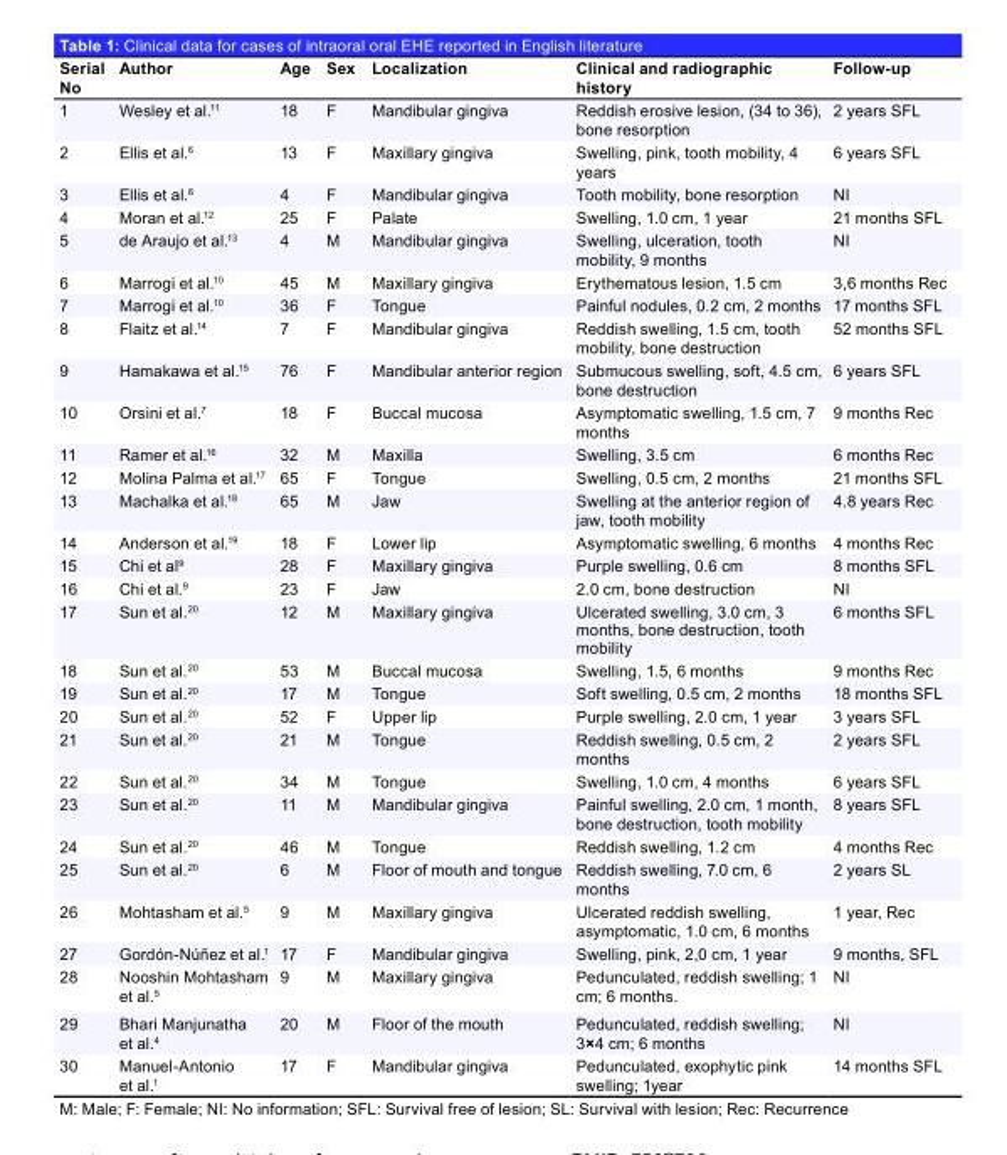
<table><thead><tr><td>Serial No</td><td>Author</td><td>Age</td><td>Sex</td><td>Localization</td><td>Clinical and radiographic history</td><td>Follow-up</td></tr></thead><tbody><tr><td>1</td><td>Wesley et al.<sup>11</sup></td><td>18</td><td>F</td><td>Mandibular gingiva</td><td>Reddish erosive lesion, (34 to 36), bone resorption</td><td>2 years SFL</td></tr><tr><td>2</td><td>Ellis et al.<sup>6</sup></td><td>13</td><td>F</td><td>Maxillary gingiva</td><td>Swelling, pink, tooth mobility, 4 years</td><td>6 years SFL</td></tr><tr><td>3</td><td>Ellis et al.<sup>6</sup></td><td>4</td><td>F</td><td>Mandibular gingiva</td><td>Tooth mobility, bone resorption</td><td>NI</td></tr><tr><td>4</td><td>Moran et al.<sup>12</sup></td><td>25</td><td>F</td><td>Palate</td><td>Swelling, 1.0 cm, 1 year</td><td>21 months SFL</td></tr><tr><td>5</td><td>de Araujo et al.<sup>13</sup></td><td>4</td><td>M</td><td>Mandibular gingiva</td><td>Swelling, ulceration, tooth mobility, 9 months</td><td>NI</td></tr><tr><td>6</td><td>Marrogi et al.<sup>10</sup></td><td>45</td><td>M</td><td>Maxillary gingiva</td><td>Erythematous lesion, 1.5 cm</td><td>3,6 months Rec</td></tr><tr><td>7</td><td>Marrogi et al.<sup>10</sup></td><td>36</td><td>F</td><td>Tongue</td><td>Painful nodules, 0.2 cm, 2 months</td><td>17 months SFL</td></tr><tr><td>8</td><td>Flaitz et al.<sup>14</sup></td><td>7</td><td>F</td><td>Mandibular gingiva</td><td>Reddish swelling, 1.5 cm, tooth mobility, bone destruction</td><td>52 months SFL</td></tr><tr><td>9</td><td>Hamakawa et al.<sup>15</sup></td><td>76</td><td>F</td><td>Mandibular anterior region</td><td>Submucous swelling, soft, 4.5 cm, bone destruction</td><td>6 years SFL</td></tr><tr><td>10</td><td>Orsini et al.<sup>7</sup></td><td>18</td><td>F</td><td>Buccal mucosa</td><td>Asymptomatic swelling, 1.5 cm, 7 months</td><td>9 months Rec</td></tr><tr><td>11</td><td>Ramer et al.<sup>16</sup></td><td>32</td><td>M</td><td>Maxilla</td><td>Swelling, 3.5 cm</td><td>6 months Rec</td></tr><tr><td>12</td><td>Molina Palma et al.<sup>17</sup></td><td>65</td><td>F</td><td>Tongue</td><td>Swelling, 0.5 cm, 2 months</td><td>21 months SFL</td></tr><tr><td>13</td><td>Machalka et al.<sup>18</sup></td><td>65</td><td>M</td><td>Jaw</td><td>Swelling at the anterior region of jaw, tooth mobility</td><td>4.8 years Rec</td></tr><tr><td>14</td><td>Anderson et al.<sup>19</sup></td><td>18</td><td>F</td><td>Lower lip</td><td>Asymptomatic swelling, 6 months</td><td>4 months Rec</td></tr><tr><td>15</td><td>Chi et al<sup>9</sup></td><td>28</td><td>F</td><td>Maxillary gingiva</td><td>Purple swelling, 0.6 cm</td><td>8 months SFL</td></tr><tr><td>16</td><td>Chi et al.<sup>9</sup></td><td>23</td><td>F</td><td>Jaw</td><td>2.0 cm, bone destruction</td><td>NI</td></tr><tr><td>17</td><td>Sun et al.<sup>20</sup></td><td>12</td><td>M</td><td>Maxillary gingiva</td><td>Ulcerated swelling, 3.0 cm, 3 months, bone destruction, tooth mobility</td><td>6 months SFL</td></tr><tr><td>18</td><td>Sun et al.<sup>20</sup></td><td>53</td><td>M</td><td>Buccal mucosa</td><td>Swelling, 1.5, 6 months</td><td>9 months Rec</td></tr><tr><td>19</td><td>Sun et al.<sup>20</sup></td><td>17</td><td>M</td><td>Tongue</td><td>Soft swelling, 0.5 cm, 2 months</td><td>18 months SFL</td></tr><tr><td>20</td><td>Sun et al.<sup>20</sup></td><td>52</td><td>F</td><td>Upper lip</td><td>Purple swelling, 2.0 cm, 1 year</td><td>3 years SFL</td></tr><tr><td>21</td><td>Sun et al.<sup>20</sup></td><td>21</td><td>M</td><td>Tongue</td><td>Reddish swelling, 0.5 cm, 2 months</td><td>2 years SFL</td></tr><tr><td>22</td><td>Sun et al.<sup>20</sup></td><td>34</td><td>M</td><td>Tongue</td><td>Swelling, 1.0 cm, 4 months</td><td>6 years SFL</td></tr><tr><td>23</td><td>Sun et al.<sup>20</sup></td><td>11</td><td>M</td><td>Mandibular gingiva</td><td>Painful swelling, 2.0 cm, 1 month, bone destruction, tooth mobility</td><td>8 years SFL</td></tr><tr><td>24</td><td>Sun et al.<sup>20</sup></td><td>46</td><td>M</td><td>Tongue</td><td>Reddish swelling, 1.2 cm</td><td>4 months Rec</td></tr><tr><td>25</td><td>Sun et al.<sup>20</sup></td><td>6</td><td>M</td><td>Floor of mouth and tongue</td><td>Reddish swelling, 7.0 cm, 6 months</td><td>2 years SL</td></tr><tr><td>26</td><td>Mohtasham et al.<sup>5</sup></td><td>9</td><td>M</td><td>Maxillary gingiva</td><td>Ulcerated reddish swelling, asymptomatic, 1.0 cm, 6 months</td><td>1 year, Rec</td></tr><tr><td>27</td><td>Gordón-Núñez et al.<sup>1</sup></td><td>17</td><td>F</td><td>Mandibular gingiva</td><td>Swelling, pink, 2,0 cm, 1 year</td><td>9 months, SFL</td></tr><tr><td>28</td><td>Nooshin Mohtasham et al.<sup>5</sup></td><td>9</td><td>M</td><td>Maxillary gingiva</td><td>Pedunculated, reddish swelling; 1 cm; 6 months.</td><td>NI</td></tr><tr><td>29</td><td>Bhari Manjunatha et al.<sup>4</sup></td><td>20</td><td>M</td><td>Floor of the mouth</td><td>Pedunculated, reddish swelling; 3×4 cm; 6 months</td><td>NI</td></tr><tr><td>30</td><td>Manuel-Antonio et al.<sup>1</sup></td><td>17</td><td>F</td><td>Mandibular gingiva</td><td>Pedunculated, exophytic pink swelling; 1year</td><td>14 months SFL</td></tr></tbody></table>